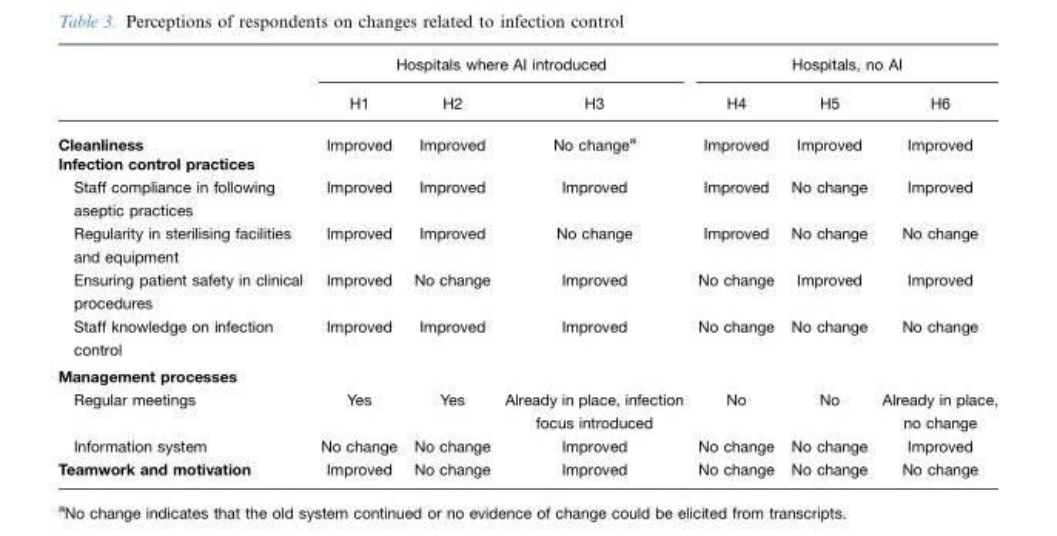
<table><thead><tr><td rowspan="2"></td><td colspan="3">Hospitals where AI introduced</td><td colspan="3">Hospitals, no AI</td></tr><tr><td>H1</td><td>H2</td><td>H3</td><td>H4</td><td>H5</td><td>H6</td></tr></thead><tbody><tr><td>Cleanliness</td><td>Improved</td><td>Improved</td><td>No change<sup>a</sup></td><td>Improved</td><td>Improved</td><td>Improved</td></tr><tr><td colspan="7">Infection control practices</td></tr><tr><td>Staff compliance in following aseptic practices</td><td>Improved</td><td>Improved</td><td>Improved</td><td>Improved</td><td>No change</td><td>Improved</td></tr><tr><td>Regularity in sterilising facilities and equipment</td><td>Improved</td><td>Improved</td><td>No change</td><td>Improved</td><td>No change</td><td>No change</td></tr><tr><td>Ensuring patient safety in clinical procedures</td><td>Improved</td><td>No change</td><td>Improved</td><td>No change</td><td>Improved</td><td>Improved</td></tr><tr><td>Staff knowledge on infection control</td><td>Improved</td><td>Improved</td><td>Improved</td><td>No change</td><td>No change</td><td>No change</td></tr><tr><td colspan="7">Management processes</td></tr><tr><td>Regular meetings</td><td>Yes</td><td>Yes</td><td>Already in place, infection focus introduced</td><td>No</td><td>No</td><td>Already in place, no change</td></tr><tr><td>Information system</td><td>No change</td><td>No change</td><td>Improved</td><td>No change</td><td>No change</td><td>Improved</td></tr><tr><td>Teamwork and motivation</td><td>Improved</td><td>No change</td><td>Improved</td><td>No change</td><td>No change</td><td>No change</td></tr></tbody></table>